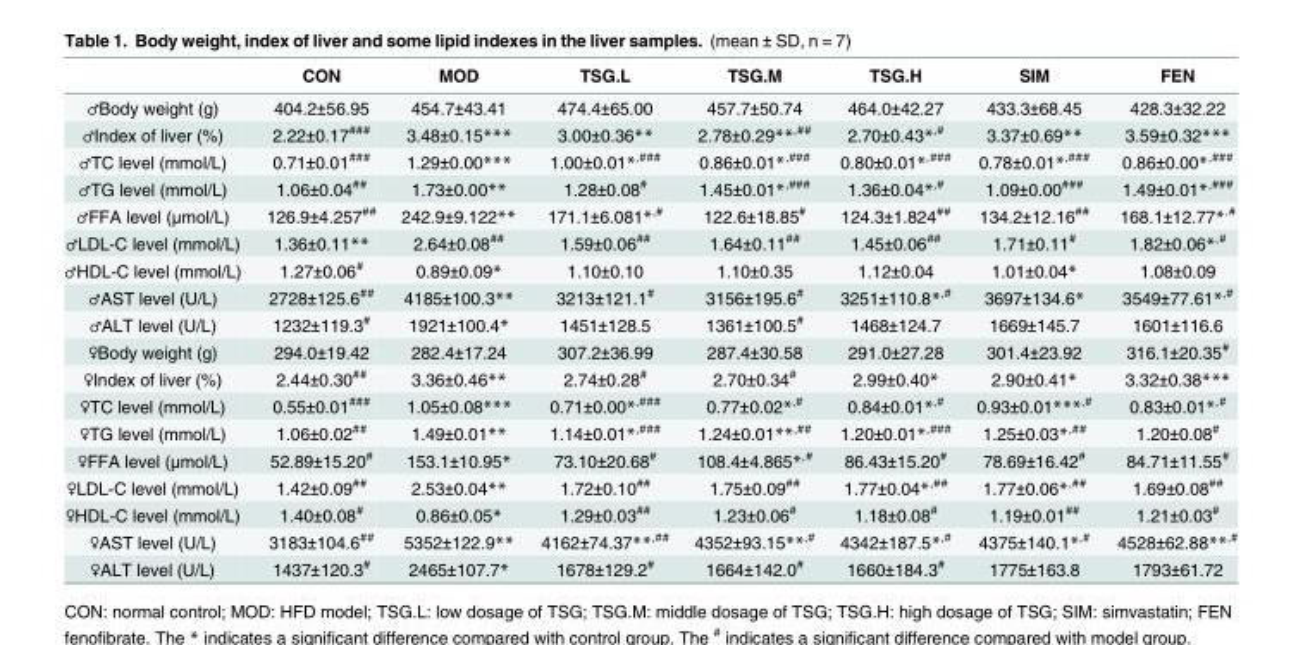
<table><thead><tr><td></td><td>CON</td><td>MOD</td><td>TSG.L</td><td>TSG.M</td><td>TSG.H</td><td>SIM</td><td>FEN</td></tr></thead><tbody><tr><td>♂Body weight (g)</td><td>404.2±56.95</td><td>454.7±43.41</td><td>474.4±65.00</td><td>457.7±50.74</td><td>464.0±42.27</td><td>433.3±68.45</td><td>428.3±32.22</td></tr><tr><td>♂Index of liver (%)</td><td>2.22±0.17<sup>###</sup></td><td>3.48±0.15***</td><td>3.00±0.36**</td><td>2.78±0.29**<sup>,##</sup></td><td>2.70±0.43*<sup>,#</sup></td><td>3.37±0.69**</td><td>3.59±0.32***</td></tr><tr><td>♂TC level (mmol/L)</td><td>0.71±0.01<sup>###</sup></td><td>1.29±0.00***</td><td>1.00±0.01*<sup>,###</sup></td><td>0.86±0.01*<sup>,###</sup></td><td>0.80±0.01*<sup>,###</sup></td><td>0.78±0.01*<sup>,###</sup></td><td>0.86±0.00*<sup>,###</sup></td></tr><tr><td>♂TG level (mmol/L)</td><td>1.06±0.04<sup>##</sup></td><td>1.73±0.00**</td><td>1.28±0.08<sup>#</sup></td><td>1.45±0.01*<sup>,###</sup></td><td>1.36±0.04*<sup>,#</sup></td><td>1.09±0.00<sup>###</sup></td><td>1.49±0.01*<sup>,###</sup></td></tr><tr><td>♂FFA level (μmol/L)</td><td>126.9±4.257<sup>##</sup></td><td>242.9±9.122**</td><td>171.1±6.081*<sup>,#</sup></td><td>122.6±18.85<sup>#</sup></td><td>124.3±1.824<sup>##</sup></td><td>134.2±12.16<sup>##</sup></td><td>168.1±12.77*<sup>.#</sup></td></tr><tr><td>♂LDL-C level (mmol/L)</td><td>1.36±0.11**</td><td>2.64±0.08<sup>##</sup></td><td>1.59±0.06<sup>##</sup></td><td>1.64±0.11<sup>##</sup></td><td>1.45±0.06<sup>##</sup></td><td>1.71±0.11<sup>#</sup></td><td>1.82±0.06*<sup>,#</sup></td></tr><tr><td>♂HDL-C level (mmol/L)</td><td>1.27±0.06<sup>#</sup></td><td>0.89±0.09*</td><td>1.10±0.10</td><td>1.10±0.35</td><td>1.12±0.04</td><td>1.01±0.04*</td><td>1.08±0.09</td></tr><tr><td>♂AST level (U/L)</td><td>2728±125.6<sup>##</sup></td><td>4185±100.3**</td><td>3213±121.1<sup>#</sup></td><td>3156±195.6<sup>#</sup></td><td>3251±110.8*<sup>,#</sup></td><td>3697±134.6*</td><td>3549±77.61*<sup>,#</sup></td></tr><tr><td>♂ALT level (U/L)</td><td>1232±119.3<sup>#</sup></td><td>1921±100.4*</td><td>1451±128.5</td><td>1361±100.5<sup>#</sup></td><td>1468±124.7</td><td>1669±145.7</td><td>1601±116.6</td></tr><tr><td>♀Body weight (g)</td><td>294.0±19.42</td><td>282.4±17.24</td><td>307.2±36.99</td><td>287.4±30.58</td><td>291.0±27.28</td><td>301.4±23.92</td><td>316.1±20.35<sup>#</sup></td></tr><tr><td>♀Index of liver (%)</td><td>2.44±0.30<sup>##</sup></td><td>3.36±0.46**</td><td>2.74±0.28<sup>#</sup></td><td>2.70±0.34<sup>#</sup></td><td>2.99±0.40*</td><td>2.90±0.41*</td><td>3.32±0.38***</td></tr><tr><td>♀TC level (mmol/L)</td><td>0.55±0.01<sup>###</sup></td><td>1.05±0.08***</td><td>0.71±0.00*<sup>,###</sup></td><td>0.77±0.02*<sup>,#</sup></td><td>0.84±0.01*<sup>,#</sup></td><td>0.93±0.01***<sup>,#</sup></td><td>0.83±0.01*<sup>,#</sup></td></tr><tr><td>♀TG level (mmol/L)</td><td>1.06±0.02<sup>##</sup></td><td>1.49±0.01**</td><td>1.14±0.01*<sup>,###</sup></td><td>1.24±0.01**<sup>,##</sup></td><td>1.20±0.01*<sup>,###</sup></td><td>1.25±0.03*<sup>,##</sup></td><td>1.20±0.08<sup>#</sup></td></tr><tr><td>♀FFA level (μmol/L)</td><td>52.89±15.20<sup>#</sup></td><td>153.1±10.95*</td><td>73.10±20.68<sup>#</sup></td><td>108.4±4.865*<sup>,#</sup></td><td>86.43±15.20<sup>#</sup></td><td>78.69±16.42<sup>#</sup></td><td>84.71±11.55<sup>#</sup></td></tr><tr><td>♀LDL-C level (mmol/L)</td><td>1.42±0.09<sup>##</sup></td><td>2.53±0.04**</td><td>1.72±0.10<sup>##</sup></td><td>1.75±0.09<sup>##</sup></td><td>1.77±0.04*<sup>,##</sup></td><td>1.77±0.06*<sup>,##</sup></td><td>1.69±0.08<sup>##</sup></td></tr><tr><td>♀HDL-C level (mmol/L)</td><td>1.40±0.08<sup>#</sup></td><td>0.86±0.05*</td><td>1.29±0.03<sup>##</sup></td><td>1.23±0.06<sup>#</sup></td><td>1.18±0.08<sup>#</sup></td><td>1.19±0.01<sup>##</sup></td><td>1.21±0.03<sup>#</sup></td></tr><tr><td>♀AST level (U/L)</td><td>3183±104.6<sup>##</sup></td><td>5352±122.9**</td><td>4162±74.37**<sup>,##</sup></td><td>4352±93.15**<sup>,#</sup></td><td>4342±187.5*<sup>,#</sup></td><td>4375±140.1*<sup>,#</sup></td><td>4528±62.88**<sup>,#</sup></td></tr><tr><td>♀ALT level (U/L)</td><td>1437±120.3<sup>#</sup></td><td>2465±107.7*</td><td>1678±129.2<sup>#</sup></td><td>1664±142.0<sup>#</sup></td><td>1660±184.3<sup>#</sup></td><td>1775±163.8</td><td>1793±61.72</td></tr></tbody></table>